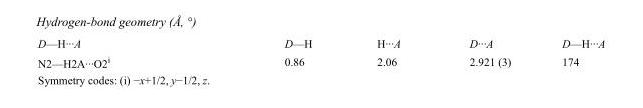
<table><tbody><tr><td>D—H···A</td><td>D—H</td><td>H···A</td><td>D···A</td><td>D—H···A</td></tr><tr><td>N2—H2A···O2<sup>i</sup></td><td>0.86</td><td>2.06</td><td>2.921 (3)</td><td>174</td></tr></tbody></table>